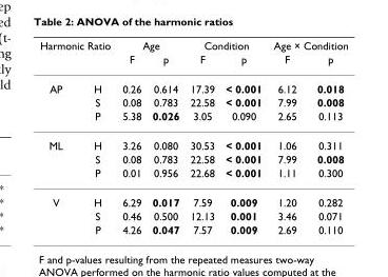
<table><thead><tr><td colspan="2">Harmonic Ratio</td><td colspan="2">Age</td><td colspan="2">Condition</td><td colspan="2">Age × Condition</td></tr><tr><td></td><td></td><td>F</td><td>p</td><td>F</td><td>p</td><td>F</td><td>p</td></tr></thead><tbody><tr><td rowspan="3">AP</td><td>H</td><td>0.26</td><td>0.614</td><td>17.39</td><td>&lt; 0.001</td><td>6.12</td><td>0.018</td></tr><tr><td>S</td><td>0.08</td><td>0.783</td><td>22.58</td><td>&lt; 0.001</td><td>7.99</td><td>0.008</td></tr><tr><td>P</td><td>5.38</td><td>0.026</td><td>3.05</td><td>0.090</td><td>2.65</td><td>0.113</td></tr><tr><td rowspan="3">ML</td><td>H</td><td>3.26</td><td>0.080</td><td>30.53</td><td>&lt; 0.001</td><td>1.06</td><td>0.311</td></tr><tr><td>S</td><td>0.08</td><td>0.783</td><td>22.58</td><td>&lt; 0.001</td><td>7.99</td><td>0.008</td></tr><tr><td>P</td><td>0.01</td><td>0.956</td><td>22.68</td><td>&lt; 0.001</td><td>1.11</td><td>0.300</td></tr><tr><td rowspan="3">V</td><td>H</td><td>6.29</td><td>0.017</td><td>7.59</td><td>0.009</td><td>1.20</td><td>0.282</td></tr><tr><td>S</td><td>0.46</td><td>0.500</td><td>12.13</td><td>0.001</td><td>3.46</td><td>0.071</td></tr><tr><td>P</td><td>4.26</td><td>0.047</td><td>7.57</td><td>0.009</td><td>2.69</td><td>0.110</td></tr></tbody></table>